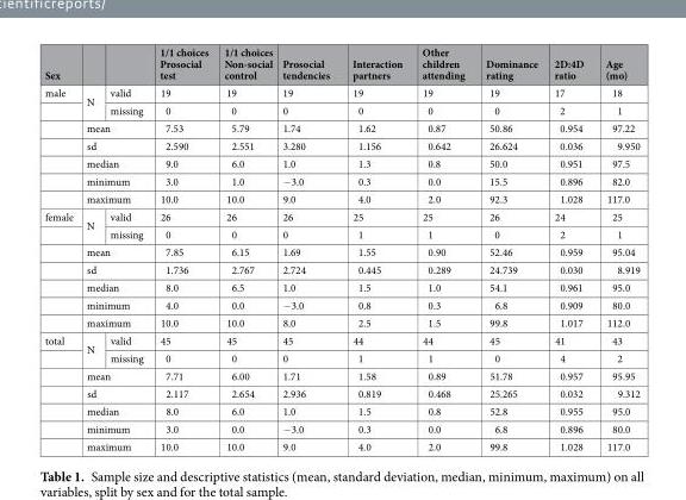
<table><thead><tr><td>Sex</td><td></td><td></td><td>1/1 choices Prosocial test</td><td>1/1 choices Non-social control</td><td>Prosocial tendencies</td><td>Interaction partners</td><td>Other children attending</td><td>Dominance rating</td><td>2D:4D ratio</td><td>Age (mo)</td></tr></thead><tbody><tr><td rowspan="7">male</td><td rowspan="2">N</td><td>valid</td><td>19</td><td>19</td><td>19</td><td>19</td><td>19</td><td>19</td><td>17</td><td>18</td></tr><tr><td>missing</td><td>0</td><td>0</td><td>0</td><td>0</td><td>0</td><td>0</td><td>2</td><td>1</td></tr><tr><td colspan="2">mean</td><td>7.53</td><td>5.79</td><td>1.74</td><td>1.62</td><td>0.87</td><td>50.86</td><td>0.954</td><td>97.22</td></tr><tr><td colspan="2">sd</td><td>2.590</td><td>2.551</td><td>3.280</td><td>1.156</td><td>0.642</td><td>26.624</td><td>0.036</td><td>9.950</td></tr><tr><td colspan="2">median</td><td>9.0</td><td>6.0</td><td>1.0</td><td>1.3</td><td>0.8</td><td>50.0</td><td>0.951</td><td>97.5</td></tr><tr><td colspan="2">minimum</td><td>3.0</td><td>1.0</td><td>−3.0</td><td>0.3</td><td>0.0</td><td>15.5</td><td>0.896</td><td>82.0</td></tr><tr><td colspan="2">maximum</td><td>10.0</td><td>10.0</td><td>9.0</td><td>4.0</td><td>2.0</td><td>92.3</td><td>1.028</td><td>117.0</td></tr><tr><td rowspan="7">female</td><td rowspan="2">N</td><td>valid</td><td>26</td><td>26</td><td>26</td><td>25</td><td>25</td><td>26</td><td>24</td><td>25</td></tr><tr><td>missing</td><td>0</td><td>0</td><td>0</td><td>1</td><td>1</td><td>0</td><td>2</td><td>1</td></tr><tr><td colspan="2">mean</td><td>7.85</td><td>6.15</td><td>1.69</td><td>1.55</td><td>0.90</td><td>52.46</td><td>0.959</td><td>95.04</td></tr><tr><td colspan="2">sd</td><td>1.736</td><td>2.767</td><td>2.724</td><td>0.445</td><td>0.289</td><td>24.739</td><td>0.030</td><td>8.919</td></tr><tr><td colspan="2">median</td><td>8.0</td><td>6.5</td><td>1.0</td><td>1.5</td><td>1.0</td><td>54.1</td><td>0.961</td><td>95.0</td></tr><tr><td colspan="2">minimum</td><td>4.0</td><td>0.0</td><td>−3.0</td><td>0.8</td><td>0.3</td><td>6.8</td><td>0.909</td><td>80.0</td></tr><tr><td colspan="2">maximum</td><td>10.0</td><td>10.0</td><td>8.0</td><td>2.5</td><td>1.5</td><td>99.8</td><td>1.017</td><td>112.0</td></tr><tr><td rowspan="7">total</td><td rowspan="2">N</td><td>valid</td><td>45</td><td>45</td><td>45</td><td>44</td><td>44</td><td>45</td><td>41</td><td>43</td></tr><tr><td>missing</td><td>0</td><td>0</td><td>0</td><td>1</td><td>1</td><td>0</td><td>4</td><td>2</td></tr><tr><td colspan="2">mean</td><td>7.71</td><td>6.00</td><td>1.71</td><td>1.58</td><td>0.89</td><td>51.78</td><td>0.957</td><td>95.95</td></tr><tr><td colspan="2">sd</td><td>2.117</td><td>2.654</td><td>2.936</td><td>0.819</td><td>0.468</td><td>25.265</td><td>0.032</td><td>9.312</td></tr><tr><td colspan="2">median</td><td>8.0</td><td>6.0</td><td>1.0</td><td>1.5</td><td>0.8</td><td>52.8</td><td>0.955</td><td>95.0</td></tr><tr><td colspan="2">minimum</td><td>3.0</td><td>0.0</td><td>−3.0</td><td>0.3</td><td>0.0</td><td>6.8</td><td>0.896</td><td>80.0</td></tr><tr><td colspan="2">maximum</td><td>10.0</td><td>10.0</td><td>9.0</td><td>4.0</td><td>2.0</td><td>99.8</td><td>1.028</td><td>117.0</td></tr></tbody></table>